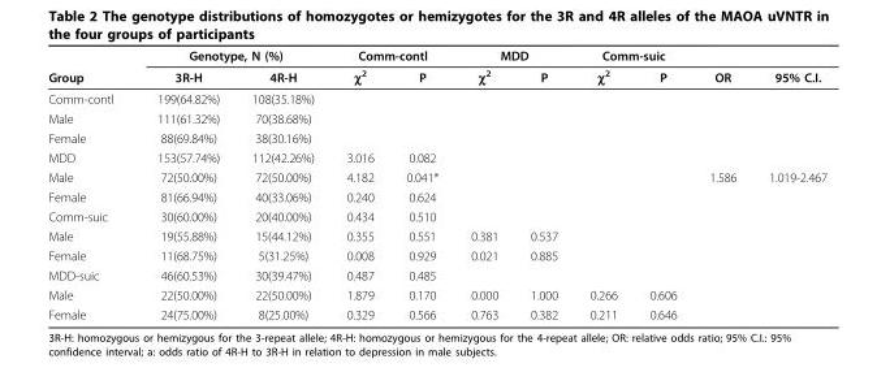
<table><thead><tr><td rowspan="2">Group</td><td colspan="2">Genotype, N (%)</td><td colspan="2">Comm-contl</td><td colspan="2">MDD</td><td colspan="2">Comm-suic</td><td rowspan="2">OR</td><td rowspan="2">95% C.I.</td></tr><tr><td>3R-H</td><td>4R-H</td><td>χ<sup>2</sup></td><td>P</td><td>χ<sup>2</sup></td><td>P</td><td>χ<sup>2</sup></td><td>P</td></tr></thead><tbody><tr><td>Comm-contl</td><td>199(64.82%)</td><td>108(35.18%)</td><td></td><td></td><td></td><td></td><td></td><td></td><td></td><td></td></tr><tr><td>Male</td><td>111(61.32%)</td><td>70(38.68%)</td><td></td><td></td><td></td><td></td><td></td><td></td><td></td><td></td></tr><tr><td>Female</td><td>88(69.84%)</td><td>38(30.16%)</td><td></td><td></td><td></td><td></td><td></td><td></td><td></td><td></td></tr><tr><td>MDD</td><td>153(57.74%)</td><td>112(42.26%)</td><td>3.016</td><td>0.082</td><td></td><td></td><td></td><td></td><td></td><td></td></tr><tr><td>Male</td><td>72(50.00%)</td><td>72(50.00%)</td><td>4.182</td><td>0.041*</td><td></td><td></td><td></td><td></td><td>1.586</td><td>1.019-2.467</td></tr><tr><td>Female</td><td>81(66.94%)</td><td>40(33.06%)</td><td>0.240</td><td>0.624</td><td></td><td></td><td></td><td></td><td></td><td></td></tr><tr><td>Comm-suic</td><td>30(60.00%)</td><td>20(40.00%)</td><td>0.434</td><td>0.510</td><td></td><td></td><td></td><td></td><td></td><td></td></tr><tr><td>Male</td><td>19(55.88%)</td><td>15(44.12%)</td><td>0.355</td><td>0.551</td><td>0.381</td><td>0.537</td><td></td><td></td><td></td><td></td></tr><tr><td>Female</td><td>11(68.75%)</td><td>5(31.25%)</td><td>0.008</td><td>0.929</td><td>0.021</td><td>0.885</td><td></td><td></td><td></td><td></td></tr><tr><td>MDD-suic</td><td>46(60.53%)</td><td>30(39.47%)</td><td>0.487</td><td>0.485</td><td></td><td></td><td></td><td></td><td></td><td></td></tr><tr><td>Male</td><td>22(50.00%)</td><td>22(50.00%)</td><td>1.879</td><td>0.170</td><td>0.000</td><td>1.000</td><td>0.266</td><td>0.606</td><td></td><td></td></tr><tr><td>Female</td><td>24(75.00%)</td><td>8(25.00%)</td><td>0.329</td><td>0.566</td><td>0.763</td><td>0.382</td><td>0.211</td><td>0.646</td><td></td><td></td></tr></tbody></table>